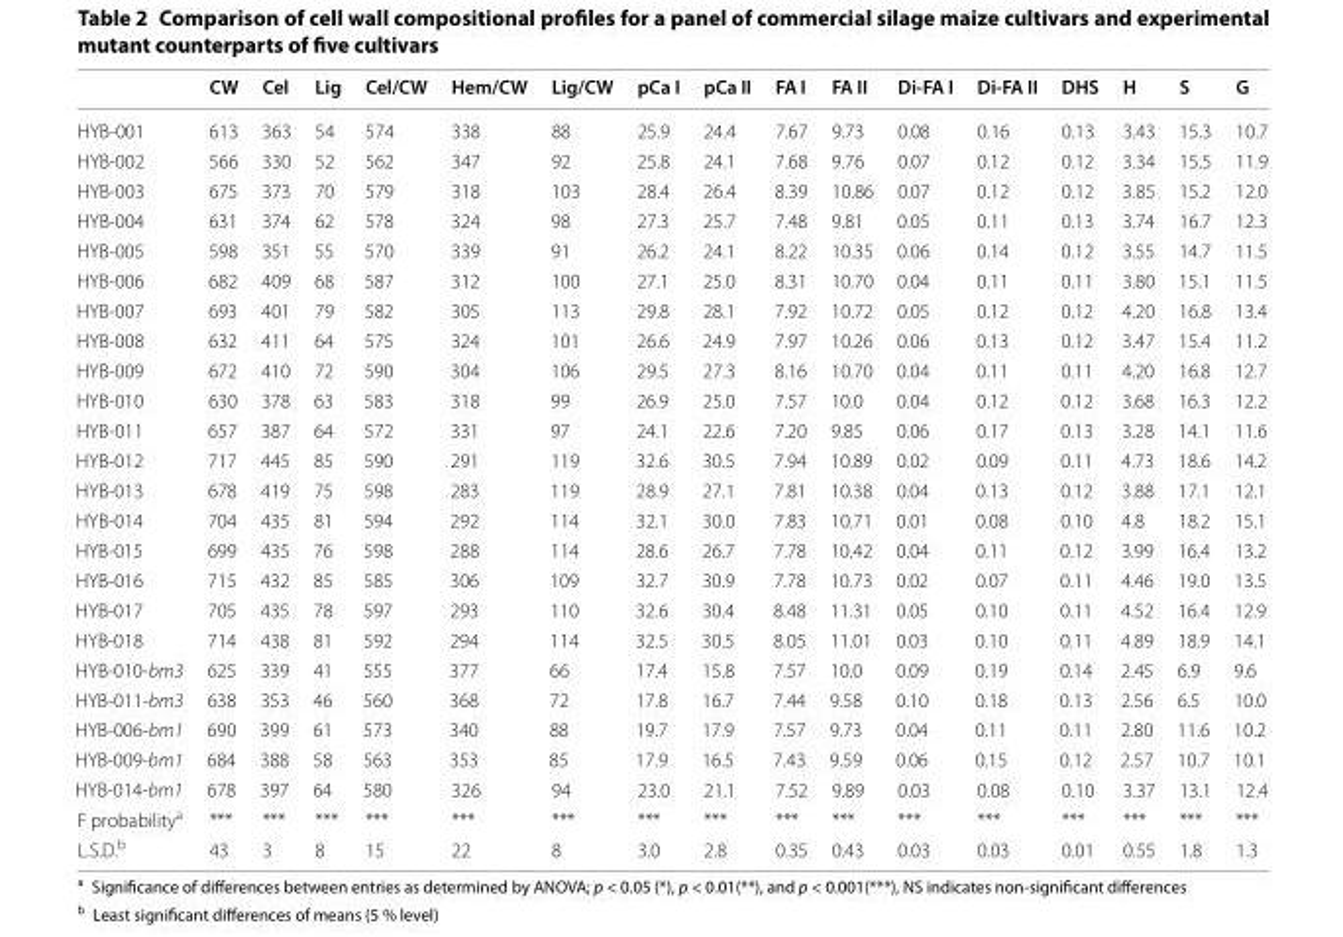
<table><thead><tr><td></td><td>CW</td><td>Cel</td><td>Lig</td><td>Cel/CW</td><td>Hem/CW</td><td>Lig/CW</td><td>pCa I</td><td>pCa II</td><td>FA I</td><td>FA II</td><td>Di-FA I</td><td>Di-FA II</td><td>DHS</td><td>H</td><td>S</td><td>G</td></tr></thead><tbody><tr><td>HYB‑001</td><td>613</td><td>363</td><td>54</td><td>574</td><td>338</td><td>88</td><td>25.9</td><td>24.4</td><td>7.67</td><td>9.73</td><td>0.08</td><td>0.16</td><td>0.13</td><td>3.43</td><td>15.3</td><td>10.7</td></tr><tr><td>HYB‑002</td><td>566</td><td>330</td><td>52</td><td>562</td><td>347</td><td>92</td><td>25.8</td><td>24.1</td><td>7.68</td><td>9.76</td><td>0.07</td><td>0.12</td><td>0.12</td><td>3.34</td><td>15.5</td><td>11.9</td></tr><tr><td>HYB‑003</td><td>675</td><td>373</td><td>70</td><td>579</td><td>318</td><td>103</td><td>28.4</td><td>26.4</td><td>8.39</td><td>10.86</td><td>0.07</td><td>0.12</td><td>0.12</td><td>3.85</td><td>15.2</td><td>12.0</td></tr><tr><td>HYB‑004</td><td>631</td><td>374</td><td>62</td><td>578</td><td>324</td><td>98</td><td>27.3</td><td>25.7</td><td>7.48</td><td>9.81</td><td>0.05</td><td>0.11</td><td>0.13</td><td>3.74</td><td>16.7</td><td>12.3</td></tr><tr><td>HYB‑005</td><td>598</td><td>351</td><td>55</td><td>570</td><td>339</td><td>91</td><td>26.2</td><td>24.1</td><td>8.22</td><td>10.35</td><td>0.06</td><td>0.14</td><td>0.12</td><td>3.55</td><td>14.7</td><td>11.5</td></tr><tr><td>HYB‑006</td><td>682</td><td>409</td><td>68</td><td>587</td><td>312</td><td>100</td><td>27.1</td><td>25.0</td><td>8.31</td><td>10.70</td><td>0.04</td><td>0.11</td><td>0.11</td><td>3.80</td><td>15.1</td><td>11.5</td></tr><tr><td>HYB‑007</td><td>693</td><td>401</td><td>79</td><td>582</td><td>305</td><td>113</td><td>29.8</td><td>28.1</td><td>7.92</td><td>10.72</td><td>0.05</td><td>0.12</td><td>0.12</td><td>4.20</td><td>16.8</td><td>13.4</td></tr><tr><td>HYB‑008</td><td>632</td><td>411</td><td>64</td><td>575</td><td>324</td><td>101</td><td>26.6</td><td>24.9</td><td>7.97</td><td>10.26</td><td>0.06</td><td>0.13</td><td>0.12</td><td>3.47</td><td>15.4</td><td>11.2</td></tr><tr><td>HYB‑009</td><td>672</td><td>410</td><td>72</td><td>590</td><td>304</td><td>106</td><td>29.5</td><td>27.3</td><td>8.16</td><td>10.70</td><td>0.04</td><td>0.11</td><td>0.11</td><td>4.20</td><td>16.8</td><td>12.7</td></tr><tr><td>HYB‑010</td><td>630</td><td>378</td><td>63</td><td>583</td><td>318</td><td>99</td><td>26.9</td><td>25.0</td><td>7.57</td><td>10.0</td><td>0.04</td><td>0.12</td><td>0.12</td><td>3.68</td><td>16.3</td><td>12.2</td></tr><tr><td>HYB‑011</td><td>657</td><td>387</td><td>64</td><td>572</td><td>331</td><td>97</td><td>24.1</td><td>22.6</td><td>7.20</td><td>9.85</td><td>0.06</td><td>0.17</td><td>0.13</td><td>3.28</td><td>14.1</td><td>11.6</td></tr><tr><td>HYB‑012</td><td>717</td><td>445</td><td>85</td><td>590</td><td>291</td><td>119</td><td>32.6</td><td>30.5</td><td>7.94</td><td>10.89</td><td>0.02</td><td>0.09</td><td>0.11</td><td>4.73</td><td>18.6</td><td>14.2</td></tr><tr><td>HYB‑013</td><td>678</td><td>419</td><td>75</td><td>598</td><td>283</td><td>119</td><td>28.9</td><td>27.1</td><td>7.81</td><td>10.38</td><td>0.04</td><td>0.13</td><td>0.12</td><td>3.88</td><td>17.1</td><td>12.1</td></tr><tr><td>HYB‑014</td><td>704</td><td>435</td><td>81</td><td>594</td><td>292</td><td>114</td><td>32.1</td><td>30.0</td><td>7.83</td><td>10.71</td><td>0.01</td><td>0.08</td><td>0.10</td><td>4.8</td><td>18.2</td><td>15.1</td></tr><tr><td>HYB‑015</td><td>699</td><td>435</td><td>76</td><td>598</td><td>288</td><td>114</td><td>28.6</td><td>26.7</td><td>7.78</td><td>10.42</td><td>0.04</td><td>0.11</td><td>0.12</td><td>3.99</td><td>16.4</td><td>13.2</td></tr><tr><td>HYB‑016</td><td>715</td><td>432</td><td>85</td><td>585</td><td>306</td><td>109</td><td>32.7</td><td>30.9</td><td>7.78</td><td>10.73</td><td>0.02</td><td>0.07</td><td>0.11</td><td>4.46</td><td>19.0</td><td>13.5</td></tr><tr><td>HYB‑017</td><td>705</td><td>435</td><td>78</td><td>597</td><td>293</td><td>110</td><td>32.6</td><td>30.4</td><td>8.48</td><td>11.31</td><td>0.05</td><td>0.10</td><td>0.11</td><td>4.52</td><td>16.4</td><td>12.9</td></tr><tr><td>HYB‑018</td><td>714</td><td>438</td><td>81</td><td>592</td><td>294</td><td>114</td><td>32.5</td><td>30.5</td><td>8.05</td><td>11.01</td><td>0.03</td><td>0.10</td><td>0.11</td><td>4.89</td><td>18.9</td><td>14.1</td></tr><tr><td>HYB‑010‑bm3</td><td>625</td><td>339</td><td>41</td><td>555</td><td>377</td><td>66</td><td>17.4</td><td>15.8</td><td>7.57</td><td>10.0</td><td>0.09</td><td>0.19</td><td>0.14</td><td>2.45</td><td>6.9</td><td>9.6</td></tr><tr><td>HYB‑011‑bm3</td><td>638</td><td>353</td><td>46</td><td>560</td><td>368</td><td>72</td><td>17.8</td><td>16.7</td><td>7.44</td><td>9.58</td><td>0.10</td><td>0.18</td><td>0.13</td><td>2.56</td><td>6.5</td><td>10.0</td></tr><tr><td>HYB‑006‑bm1</td><td>690</td><td>399</td><td>61</td><td>573</td><td>340</td><td>88</td><td>19.7</td><td>17.9</td><td>7.57</td><td>9.73</td><td>0.04</td><td>0.11</td><td>0.11</td><td>2.80</td><td>11.6</td><td>10.2</td></tr><tr><td>HYB‑009‑bm1</td><td>684</td><td>388</td><td>58</td><td>563</td><td>353</td><td>85</td><td>17.9</td><td>16.5</td><td>7.43</td><td>9.59</td><td>0.06</td><td>0.15</td><td>0.12</td><td>2.57</td><td>10.7</td><td>10.1</td></tr><tr><td>HYB‑014‑bm1</td><td>678</td><td>397</td><td>64</td><td>580</td><td>326</td><td>94</td><td>23.0</td><td>21.1</td><td>7.52</td><td>9.89</td><td>0.03</td><td>0.08</td><td>0.10</td><td>3.37</td><td>13.1</td><td>12.4</td></tr><tr><td>F probability<sup>a</sup></td><td>***</td><td>***</td><td>***</td><td>***</td><td>***</td><td>***</td><td>***</td><td>***</td><td>***</td><td>***</td><td>***</td><td>***</td><td>***</td><td>***</td><td>***</td><td>***</td></tr><tr><td>L.S.D.<sup>b</sup></td><td>43</td><td>3</td><td>8</td><td>15</td><td>22</td><td>8</td><td>3.0</td><td>2.8</td><td>0.35</td><td>0.43</td><td>0.03</td><td>0.03</td><td>0.01</td><td>0.55</td><td>1.8</td><td>1.3</td></tr></tbody></table>